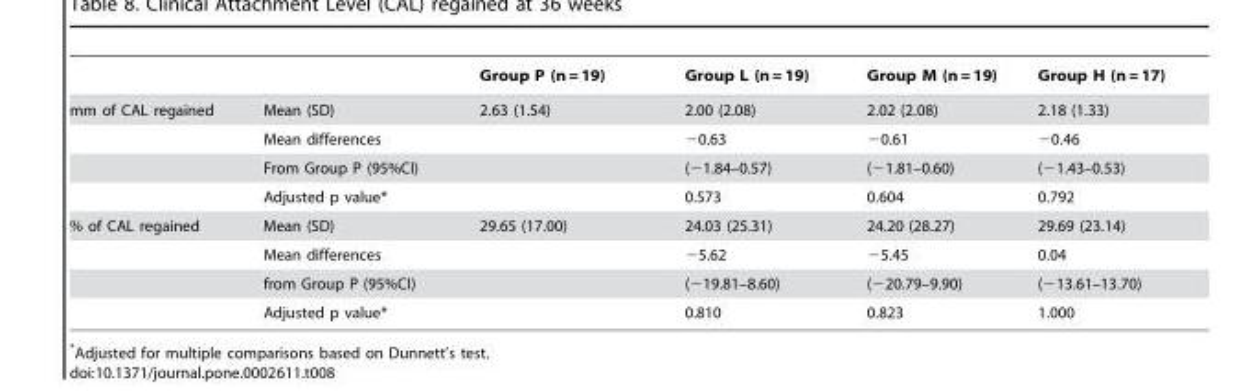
<table><thead><tr><td></td><td></td><td>Group P (n = 19)</td><td>Group L (n = 19)</td><td>Group M (n = 19)</td><td>Group H (n = 17)</td></tr></thead><tbody><tr><td rowspan="4">mm of CAL regained</td><td>Mean (SD)</td><td>2.63 (1.54)</td><td>2.00 (2.08)</td><td>2.02 (2.08)</td><td>2.18 (1.33)</td></tr><tr><td>Mean differences</td><td></td><td>−0.63</td><td>−0.61</td><td>−0.46</td></tr><tr><td>From Group P (95%CI)</td><td></td><td>(−1.84–0.57)</td><td>(−1.81–0.60)</td><td>(−1.43–0.53)</td></tr><tr><td>Adjusted p value*</td><td></td><td>0.573</td><td>0.604</td><td>0.792</td></tr><tr><td rowspan="4">% of CAL regained</td><td>Mean (SD)</td><td>29.65 (17.00)</td><td>24.03 (25.31)</td><td>24.20 (28.27)</td><td>29.69 (23.14)</td></tr><tr><td>Mean differences</td><td></td><td>−5.62</td><td>−5.45</td><td>0.04</td></tr><tr><td>from Group P (95%CI)</td><td></td><td>(−19.81–8.60)</td><td>(−20.79–9.90)</td><td>(−13.61–13.70)</td></tr><tr><td>Adjusted p value*</td><td></td><td>0.810</td><td>0.823</td><td>1.000</td></tr></tbody></table>